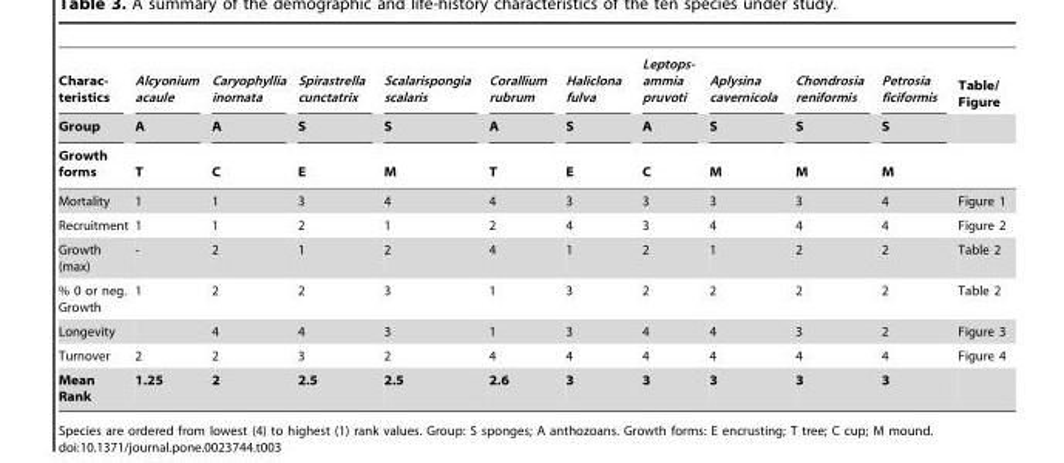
<table><thead><tr><td rowspan="3">Charac- teristics Group Growth forms</td><td rowspan="3">Alcyonium acaule A T</td><td rowspan="3">Caryophyllia inornata A C</td><td rowspan="3">Spirastrella cunctatrix S E</td><td rowspan="3">Scalarispongia scalaris S M</td><td rowspan="3">Corallium rubrum A T</td><td rowspan="3">Haliclona fulva S E</td><td rowspan="3">Leptops- ammia pruvoti A C</td><td rowspan="3">Aplysina cavernicola S M</td><td rowspan="3">Chondrosia reniformis S M</td><td rowspan="3">Petrosia ficiformis S M</td><td rowspan="3">Table/ Figure</td></tr><tr></tr><tr></tr></thead><tbody><tr><td>Mortality</td><td>1</td><td>1</td><td>3</td><td>4</td><td>4</td><td>3</td><td>3</td><td>3</td><td>3</td><td>4</td><td>Figure 1</td></tr><tr><td>Recruitment</td><td>1</td><td>1</td><td>2</td><td>1</td><td>2</td><td>4</td><td>3</td><td>4</td><td>4</td><td>4</td><td>Figure 2</td></tr><tr><td>Growth (max)</td><td>-</td><td>2</td><td>1</td><td>2</td><td>4</td><td>1</td><td>2</td><td>1</td><td>2</td><td>2</td><td>Table 2</td></tr><tr><td>% 0 or neg. Growth</td><td>1</td><td>2</td><td>2</td><td>3</td><td>1</td><td>3</td><td>2</td><td>2</td><td>2</td><td>2</td><td>Table 2</td></tr><tr><td>Longevity</td><td></td><td>4</td><td>4</td><td>3</td><td>1</td><td>3</td><td>4</td><td>4</td><td>3</td><td>2</td><td>Figure 3</td></tr><tr><td>Turnover</td><td>2</td><td>2</td><td>3</td><td>2</td><td>4</td><td>4</td><td>4</td><td>4</td><td>4</td><td>4</td><td>Figure 4</td></tr><tr><td>Mean Rank</td><td>1.25</td><td>2</td><td>2.5</td><td>2.5</td><td>2.6</td><td>3</td><td>3</td><td>3</td><td>3</td><td>3</td><td></td></tr></tbody></table>